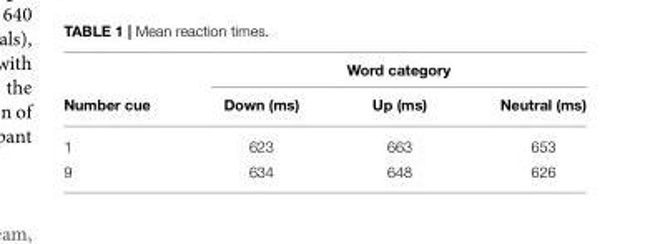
<table><thead><tr><td rowspan="2">Number cue</td><td colspan="3">Word category</td></tr><tr><td>Down (ms)</td><td>Up (ms)</td><td>Neutral (ms)</td></tr></thead><tbody><tr><td>1</td><td>623</td><td>663</td><td>653</td></tr><tr><td>9</td><td>634</td><td>648</td><td>626</td></tr></tbody></table>